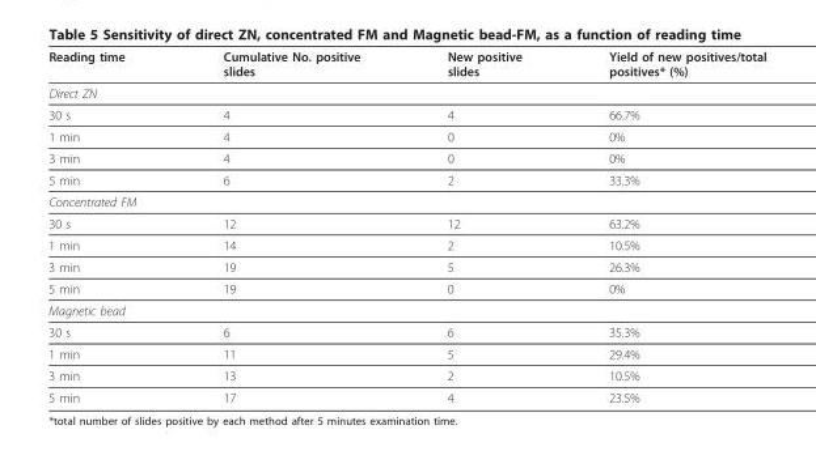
<table><thead><tr><td>Reading time</td><td>Cumulative No. positive slides</td><td>New positive slides</td><td>Yield of new positives/total positives* (%)</td></tr></thead><tbody><tr><td colspan="4">Direct ZN</td></tr><tr><td>30 s</td><td>4</td><td>4</td><td>66.7%</td></tr><tr><td>1 min</td><td>4</td><td>0</td><td>0%</td></tr><tr><td>3 min</td><td>4</td><td>0</td><td>0%</td></tr><tr><td>5 min</td><td>6</td><td>2</td><td>33.3%</td></tr><tr><td colspan="4">Concentrated FM</td></tr><tr><td>30 s</td><td>12</td><td>12</td><td>63.2%</td></tr><tr><td>1 min</td><td>14</td><td>2</td><td>10.5%</td></tr><tr><td>3 min</td><td>19</td><td>5</td><td>26.3%</td></tr><tr><td>5 min</td><td>19</td><td>0</td><td>0%</td></tr><tr><td colspan="4">Magnetic bead</td></tr><tr><td>30 s</td><td>6</td><td>6</td><td>35.3%</td></tr><tr><td>1 min</td><td>11</td><td>5</td><td>29.4%</td></tr><tr><td>3 min</td><td>13</td><td>2</td><td>10.5%</td></tr><tr><td>5 min</td><td>17</td><td>4</td><td>23.5%</td></tr></tbody></table>